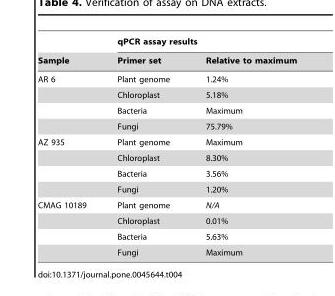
<table><thead><tr><td rowspan="2">Sample</td><td colspan="2">qPCR assay results</td></tr><tr><td>Primer set</td><td>Relative to maximum</td></tr></thead><tbody><tr><td rowspan="4">AR 6</td><td>Plant genome</td><td>1.24%</td></tr><tr><td>Chloroplast</td><td>5.18%</td></tr><tr><td>Bacteria</td><td>Maximum</td></tr><tr><td>Fungi</td><td>75.79%</td></tr><tr><td rowspan="4">AZ 935</td><td>Plant genome</td><td>Maximum</td></tr><tr><td>Chloroplast</td><td>8.30%</td></tr><tr><td>Bacteria</td><td>3.56%</td></tr><tr><td>Fungi</td><td>1.20%</td></tr><tr><td rowspan="4">CMAG 10189</td><td>Plant genome</td><td>N/A</td></tr><tr><td>Chloroplast</td><td>0.01%</td></tr><tr><td>Bacteria</td><td>5.63%</td></tr><tr><td>Fungi</td><td>Maximum</td></tr></tbody></table>